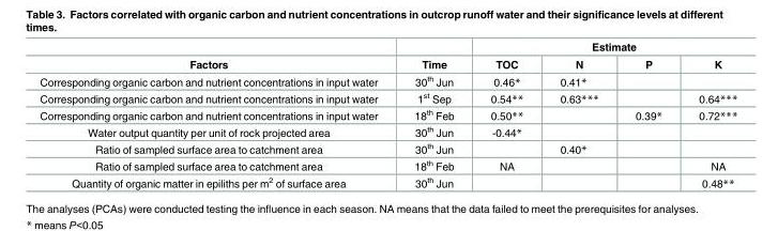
<table><thead><tr><td rowspan="2">Factors</td><td rowspan="2">Time</td><td colspan="4">Estimate</td></tr><tr><td>TOC</td><td>N</td><td>P</td><td>K</td></tr></thead><tbody><tr><td>Corresponding organic carbon and nutrient concentrations in input water</td><td>30<sup>th</sup> Jun</td><td>0.46*</td><td>0.41*</td><td></td><td></td></tr><tr><td>Corresponding organic carbon and nutrient concentrations in input water</td><td>1<sup>st</sup> Sep</td><td>0.54**</td><td>0.63***</td><td></td><td>0.64***</td></tr><tr><td>Corresponding organic carbon and nutrient concentrations in input water</td><td>18<sup>th</sup> Feb</td><td>0.50**</td><td></td><td>0.39*</td><td>0.72***</td></tr><tr><td>Water output quantity per unit of rock projected area</td><td>30<sup>th</sup> Jun</td><td>-0.44*</td><td></td><td></td><td></td></tr><tr><td>Ratio of sampled surface area to catchment area</td><td>30<sup>th</sup> Jun</td><td></td><td>0.40*</td><td></td><td></td></tr><tr><td>Ratio of sampled surface area to catchment area</td><td>18<sup>th</sup> Feb</td><td>NA</td><td></td><td></td><td>NA</td></tr><tr><td>Quantity of organic matter in epiliths per m<sup>2</sup> of surface area</td><td>30<sup>th</sup> Jun</td><td></td><td></td><td></td><td>0.48**</td></tr></tbody></table>